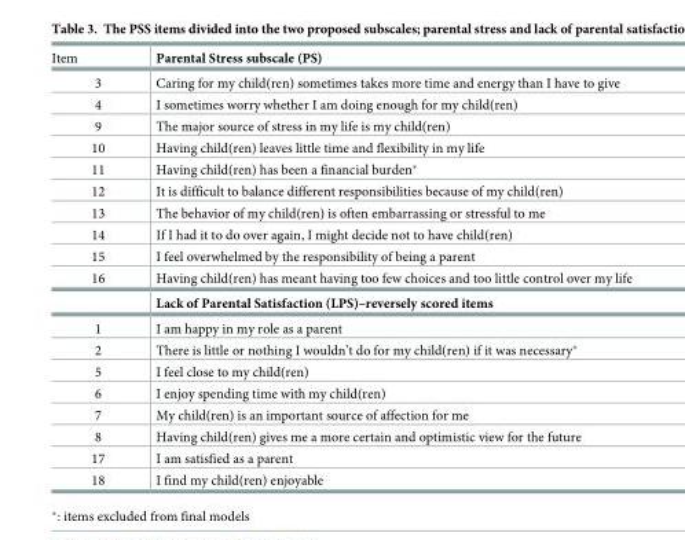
<table><tbody><tr><td>Item</td><td>Parental Stress subscale (PS)</td></tr><tr><td>3</td><td>Caring for my child(ren) sometimes takes more time and energy than I have to give</td></tr><tr><td>4</td><td>I sometimes worry whether I am doing enough for my child(ren)</td></tr><tr><td>9</td><td>The major source of stress in my life is my child(ren)</td></tr><tr><td>10</td><td>Having child(ren) leaves little time and flexibility in my life</td></tr><tr><td>11</td><td>Having child(ren) has been a financial burden*</td></tr><tr><td>12</td><td>It is difficult to balance different responsibilities because of my child(ren)</td></tr><tr><td>13</td><td>The behavior of my child(ren) is often embarrassing or stressful to me</td></tr><tr><td>14</td><td>If I had it to do over again, I might decide not to have child(ren)</td></tr><tr><td>15</td><td>I feel overwhelmed by the responsibility of being a parent</td></tr><tr><td rowspan="2">16</td><td>Having child(ren) has meant having too few choices and too little control over my life</td></tr><tr><td>Lack of Parental Satisfaction (LPS)–reversely scored items</td></tr><tr><td>1</td><td>I am happy in my role as a parent</td></tr><tr><td>2</td><td>There is little or nothing I wouldn’t do for my child(ren) if it was necessary*</td></tr><tr><td>5</td><td>I feel close to my child(ren)</td></tr><tr><td>6</td><td>I enjoy spending time with my child(ren)</td></tr><tr><td>7</td><td>My child(ren) is an important source of affection for me</td></tr><tr><td>8</td><td>Having child(ren) gives me a more certain and optimistic view for the future</td></tr><tr><td>17</td><td>I am satisfied as a parent</td></tr><tr><td>18</td><td>I find my child(ren) enjoyable</td></tr></tbody></table>